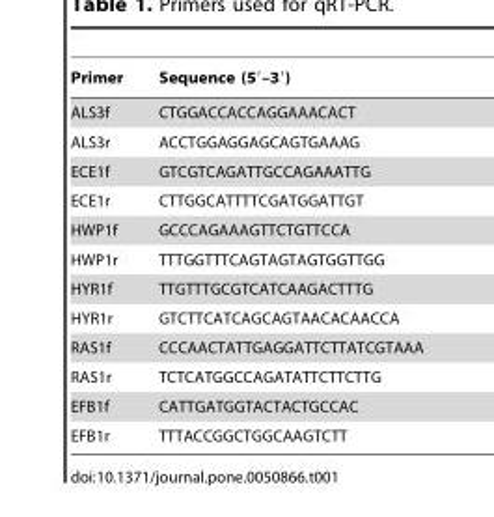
<table><thead><tr><td>Primer</td><td>Sequence (5′–3′)</td></tr></thead><tbody><tr><td>ALS3f</td><td>CTGGACCACCAGGAAACACT</td></tr><tr><td>ALS3r</td><td>ACCTGGAGGAGCAGTGAAAG</td></tr><tr><td>ECE1f</td><td>GTCGTCAGATTGCCAGAAATTG</td></tr><tr><td>ECE1r</td><td>CTTGGCATTTTCGATGGATTGT</td></tr><tr><td>HWP1f</td><td>GCCCAGAAAGTTCTGTTCCA</td></tr><tr><td>HWP1r</td><td>TTTGGTTTCAGTAGTAGTGGTTGG</td></tr><tr><td>HYR1f</td><td>TTGTTTGCGTCATCAAGACTTTG</td></tr><tr><td>HYR1r</td><td>GTCTTCATCAGCAGTAACACAACCA</td></tr><tr><td>RAS1f</td><td>CCCAACTATTGAGGATTCTTATCGTAAA</td></tr><tr><td>RAS1r</td><td>TCTCATGGCCAGATATTCTTCTTG</td></tr><tr><td>EFB1f</td><td>CATTGATGGTACTACTGCCAC</td></tr><tr><td>EFB1r</td><td>TTTACCGGCTGGCAAGTCTT</td></tr></tbody></table>